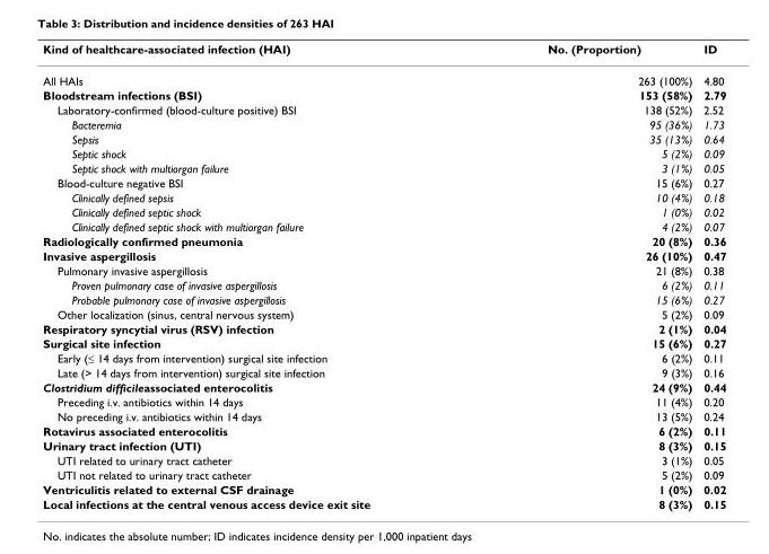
<table><thead><tr><td>Kind of healthcare-associated infection (HAI)</td><td>No. (Proportion)</td><td>ID</td></tr></thead><tbody><tr><td>All HAIs</td><td>263 (100%)</td><td>4.80</td></tr><tr><td>Bloodstream infections (BSI)</td><td>153 (58%)</td><td>2.79</td></tr><tr><td>Laboratory-confirmed (blood-culture positive) BSI</td><td>138 (52%)</td><td>2.52</td></tr><tr><td>Bacteremia</td><td>95 (36%)</td><td>1.73</td></tr><tr><td>Sepsis</td><td>35 (13%)</td><td>0.64</td></tr><tr><td>Septic shock</td><td>5 (2%)</td><td>0.09</td></tr><tr><td>Septic shock with multiorgan failure</td><td>3 (1%)</td><td>0.05</td></tr><tr><td>Blood-culture negative BSI</td><td>15 (6%)</td><td>0.27</td></tr><tr><td>Clinically defined sepsis</td><td>10 (4%)</td><td>0.18</td></tr><tr><td>Clinically defined septic shock</td><td>1 (0%)</td><td>0.02</td></tr><tr><td>Clinically defined septic shock with multiorgan failure</td><td>4 (2%)</td><td>0.07</td></tr><tr><td>Radiologically confirmed pneumonia</td><td>20 (8%)</td><td>0.36</td></tr><tr><td>Invasive aspergillosis</td><td>26 (10%)</td><td>0.47</td></tr><tr><td>Pulmonary invasive aspergillosis</td><td>21 (8%)</td><td>0.38</td></tr><tr><td>Proven pulmonary case of invasive aspergillosis</td><td>6 (2%)</td><td>0.11</td></tr><tr><td>Probable pulmonary case of invasive aspergillosis</td><td>15 (6%)</td><td>0.27</td></tr><tr><td>Other localization (sinus, central nervous system)</td><td>5 (2%)</td><td>0.09</td></tr><tr><td>Respiratory syncytial virus (RSV) infection</td><td>2 (1%)</td><td>0.04</td></tr><tr><td>Surgical site infection</td><td>15 (6%)</td><td>0.27</td></tr><tr><td>Early (≤ 14 days from intervention) surgical site infection</td><td>6 (2%)</td><td>0.11</td></tr><tr><td>Late (&gt; 14 days from intervention) surgical site infection</td><td>9 (3%)</td><td>0.16</td></tr><tr><td>Clostridium difficileassociated enterocolitis</td><td>24 (9%)</td><td>0.44</td></tr><tr><td>Preceding i.v. antibiotics within 14 days</td><td>11 (4%)</td><td>0.20</td></tr><tr><td>No preceding i.v. antibiotics within 14 days</td><td>13 (5%)</td><td>0.24</td></tr><tr><td>Rotavirus associated enterocolitis</td><td>6 (2%)</td><td>0.11</td></tr><tr><td>Urinary tract infection (UTI)</td><td>8 (3%)</td><td>0.15</td></tr><tr><td>UTI related to urinary tract catheter</td><td>3 (1%)</td><td>0.05</td></tr><tr><td>UTI not related to urinary tract catheter</td><td>5 (2%)</td><td>0.09</td></tr><tr><td>Ventriculitis related to external CSF drainage</td><td>1 (0%)</td><td>0.02</td></tr><tr><td>Local infections at the central venous access device exit site</td><td>8 (3%)</td><td>0.15</td></tr></tbody></table>